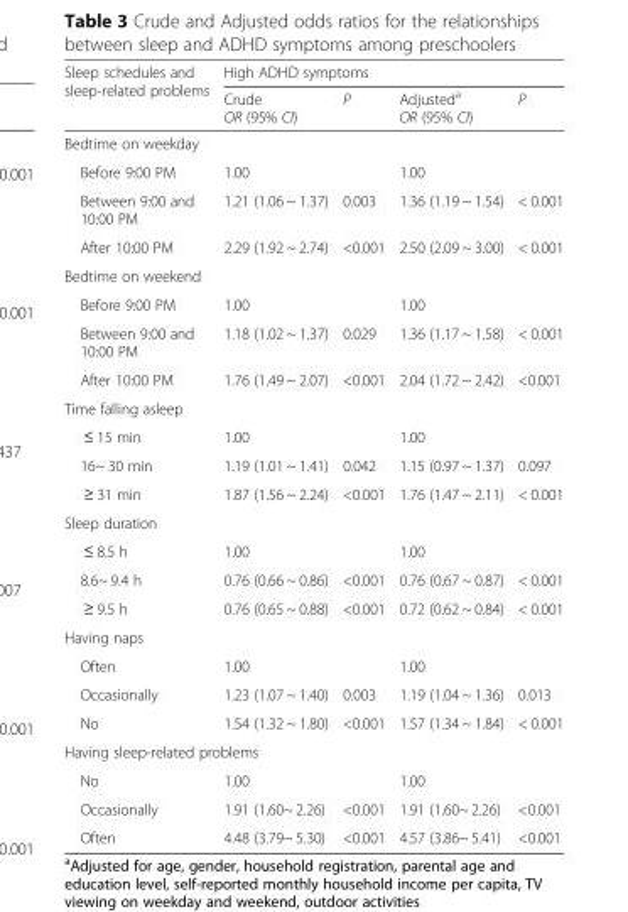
<table><thead><tr><td rowspan="2">Sleep schedules and sleep-related problems</td><td colspan="4">High ADHD symptoms</td></tr><tr><td>Crude OR (95% CI)</td><td>P</td><td>Adjusted<sup>a</sup> OR (95% CI)</td><td>P</td></tr></thead><tbody><tr><td colspan="5">Bedtime on weekday</td></tr><tr><td>Before 9:00 PM</td><td>1.00</td><td></td><td>1.00</td><td></td></tr><tr><td>Between 9:00 and 10:00 PM</td><td>1.21 (1.06 ~ 1.37)</td><td>0.003</td><td>1.36 (1.19 ~ 1.54)</td><td>&lt; 0.001</td></tr><tr><td>After 10:00 PM</td><td>2.29 (1.92 ~ 2.74)</td><td>&lt;0.001</td><td>2.50 (2.09 ~ 3.00)</td><td>&lt; 0.001</td></tr><tr><td colspan="5">Bedtime on weekend</td></tr><tr><td>Before 9:00 PM</td><td>1.00</td><td></td><td>1.00</td><td></td></tr><tr><td>Between 9:00 and 10:00 PM</td><td>1.18 (1.02 ~ 1.37)</td><td>0.029</td><td>1.36 (1.17 ~ 1.58)</td><td>&lt; 0.001</td></tr><tr><td>After 10:00 PM</td><td>1.76 (1.49 ~ 2.07)</td><td>&lt;0.001</td><td>2.04 (1.72 ~ 2.42)</td><td>&lt;0.001</td></tr><tr><td colspan="5">Time falling asleep</td></tr><tr><td>≤ 15 min</td><td>1.00</td><td></td><td>1.00</td><td></td></tr><tr><td>16~ 30 min</td><td>1.19 (1.01 ~ 1.41)</td><td>0.042</td><td>1.15 (0.97 ~ 1.37)</td><td>0.097</td></tr><tr><td>≥ 31 min</td><td>1.87 (1.56 ~ 2.24)</td><td>&lt;0.001</td><td>1.76 (1.47 ~ 2.11)</td><td>&lt; 0.001</td></tr><tr><td colspan="5">Sleep duration</td></tr><tr><td>≤ 8.5 h</td><td>1.00</td><td></td><td>1.00</td><td></td></tr><tr><td>8.6~ 9.4 h</td><td>0.76 (0.66 ~ 0.86)</td><td>&lt;0.001</td><td>0.76 (0.67 ~ 0.87)</td><td>&lt; 0.001</td></tr><tr><td>≥ 9.5 h</td><td>0.76 (0.65 ~ 0.88)</td><td>&lt;0.001</td><td>0.72 (0.62 ~ 0.84)</td><td>&lt; 0.001</td></tr><tr><td colspan="5">Having naps</td></tr><tr><td>Often</td><td>1.00</td><td></td><td>1.00</td><td></td></tr><tr><td>Occasionally</td><td>1.23 (1.07 ~ 1.40)</td><td>0.003</td><td>1.19 (1.04 ~ 1.36)</td><td>0.013</td></tr><tr><td>No</td><td>1.54 (1.32 ~ 1.80)</td><td>&lt;0.001</td><td>1.57 (1.34 ~ 1.84)</td><td>&lt; 0.001</td></tr><tr><td colspan="5">Having sleep-related problems</td></tr><tr><td>No</td><td>1.00</td><td></td><td>1.00</td><td></td></tr><tr><td>Occasionally</td><td>1.91 (1.60~ 2.26)</td><td>&lt;0.001</td><td>1.91 (1.60~ 2.26)</td><td>&lt;0.001</td></tr><tr><td>Often</td><td>4.48 (3.79~ 5.30)</td><td>&lt;0.001</td><td>4.57 (3.86~ 5.41)</td><td>&lt;0.001</td></tr></tbody></table>